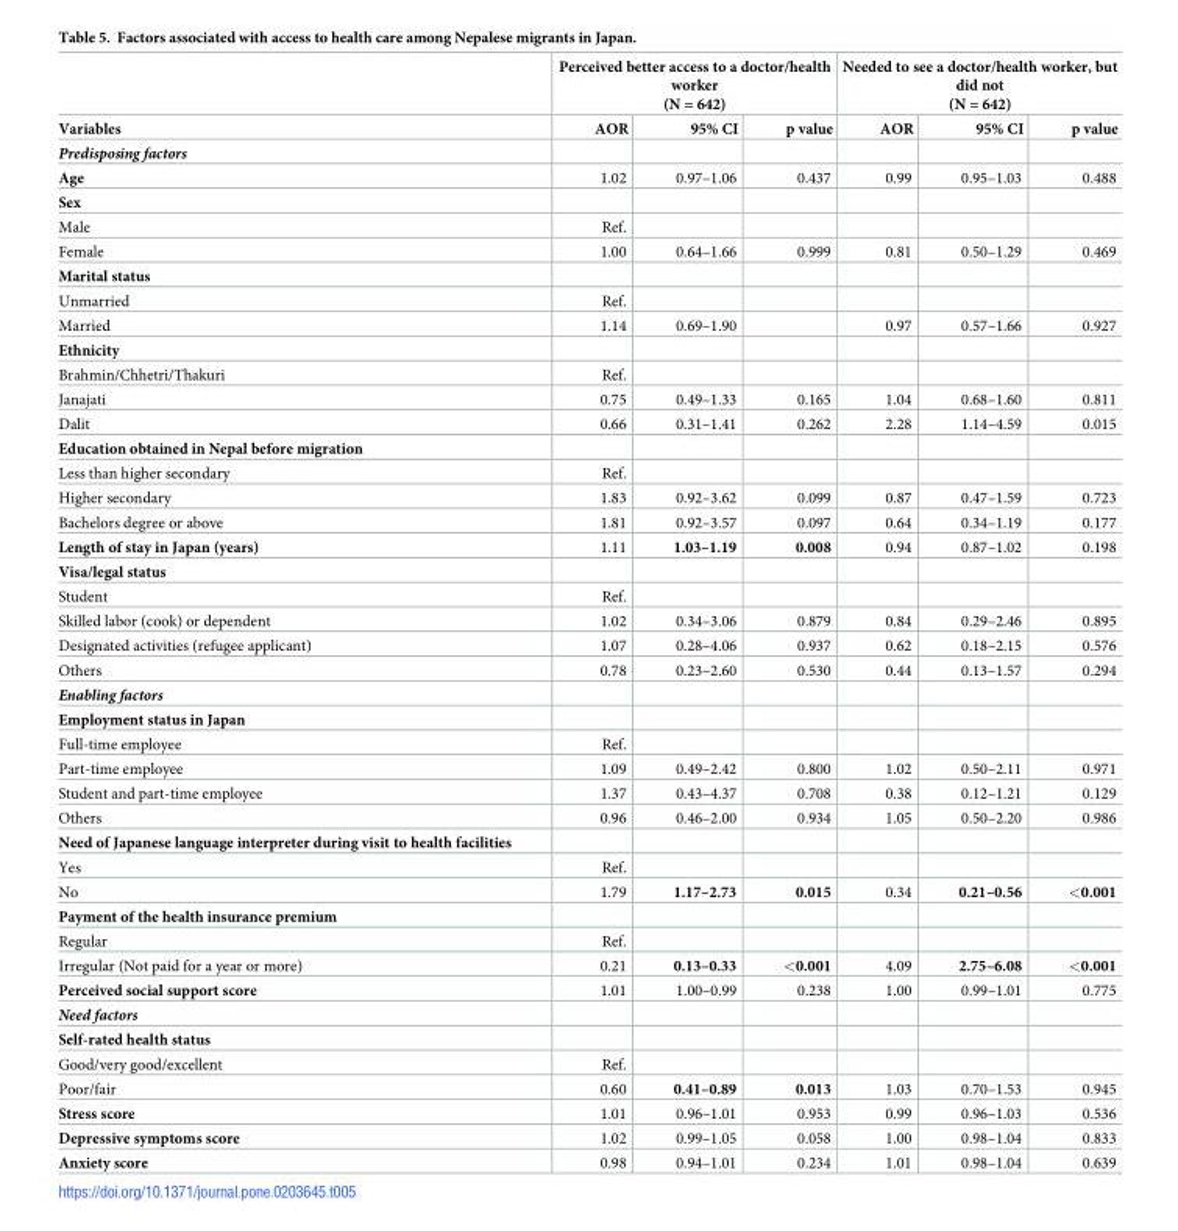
<table><thead><tr><td rowspan="2">Variables</td><td colspan="3">Perceived better access to a doctor/health worker (N = 642)</td><td colspan="3">Needed to see a doctor/health worker, but did not (N = 642)</td></tr><tr><td>AOR</td><td>95% CI</td><td>p value</td><td>AOR</td><td>95% CI</td><td>p value</td></tr></thead><tbody><tr><td colspan="7">Predisposing factors</td></tr><tr><td>Age</td><td>1.02</td><td>0.97–1.06</td><td>0.437</td><td>0.99</td><td>0.95–1.03</td><td>0.488</td></tr><tr><td colspan="7">Sex</td></tr><tr><td>Male</td><td>Ref.</td><td></td><td></td><td></td><td></td><td></td></tr><tr><td>Female</td><td>1.00</td><td>0.64–1.66</td><td>0.999</td><td>0.81</td><td>0.50–1.29</td><td>0.469</td></tr><tr><td colspan="7">Marital status</td></tr><tr><td>Unmarried</td><td>Ref.</td><td></td><td></td><td></td><td></td><td></td></tr><tr><td>Married</td><td>1.14</td><td>0.69–1.90</td><td></td><td>0.97</td><td>0.57–1.66</td><td>0.927</td></tr><tr><td colspan="7">Ethnicity</td></tr><tr><td>Brahmin/Chhetri/Thakuri</td><td>Ref.</td><td></td><td></td><td></td><td></td><td></td></tr><tr><td>Janajati</td><td>0.75</td><td>0.49–1.33</td><td>0.165</td><td>1.04</td><td>0.68–1.60</td><td>0.811</td></tr><tr><td>Dalit</td><td>0.66</td><td>0.31–1.41</td><td>0.262</td><td>2.28</td><td>1.14–4.59</td><td>0.015</td></tr><tr><td colspan="7">Education obtained in Nepal before migration</td></tr><tr><td>Less than higher secondary</td><td>Ref.</td><td></td><td></td><td></td><td></td><td></td></tr><tr><td>Higher secondary</td><td>1.83</td><td>0.92–3.62</td><td>0.099</td><td>0.87</td><td>0.47–1.59</td><td>0.723</td></tr><tr><td>Bachelors degree or above</td><td>1.81</td><td>0.92–3.57</td><td>0.097</td><td>0.64</td><td>0.34–1.19</td><td>0.177</td></tr><tr><td>Length of stay in Japan (years)</td><td>1.11</td><td>1.03–1.19</td><td>0.008</td><td>0.94</td><td>0.87–1.02</td><td>0.198</td></tr><tr><td colspan="7">Visa/legal status</td></tr><tr><td>Student</td><td>Ref.</td><td></td><td></td><td></td><td></td><td></td></tr><tr><td>Skilled labor (cook) or dependent</td><td>1.02</td><td>0.34–3.06</td><td>0.879</td><td>0.84</td><td>0.29–2.46</td><td>0.895</td></tr><tr><td>Designated activities (refugee applicant)</td><td>1.07</td><td>0.28–4.06</td><td>0.937</td><td>0.62</td><td>0.18–2.15</td><td>0.576</td></tr><tr><td>Others</td><td>0.78</td><td>0.23–2.60</td><td>0.530</td><td>0.44</td><td>0.13–1.57</td><td>0.294</td></tr><tr><td colspan="7">Enabling factors</td></tr><tr><td colspan="7">Employment status in Japan</td></tr><tr><td>Full-time employee</td><td>Ref.</td><td></td><td></td><td></td><td></td><td></td></tr><tr><td>Part-time employee</td><td>1.09</td><td>0.49–2.42</td><td>0.800</td><td>1.02</td><td>0.50–2.11</td><td>0.971</td></tr><tr><td>Student and part-time employee</td><td>1.37</td><td>0.43–4.37</td><td>0.708</td><td>0.38</td><td>0.12–1.21</td><td>0.129</td></tr><tr><td>Others</td><td>0.96</td><td>0.46–2.00</td><td>0.934</td><td>1.05</td><td>0.50–2.20</td><td>0.986</td></tr><tr><td colspan="7">Need of Japanese language interpreter during visit to health facilities</td></tr><tr><td>Yes</td><td>Ref.</td><td></td><td></td><td></td><td></td><td></td></tr><tr><td>No</td><td>1.79</td><td>1.17–2.73</td><td>0.015</td><td>0.34</td><td>0.21–0.56</td><td>&lt;0.001</td></tr><tr><td colspan="7">Payment of the health insurance premium</td></tr><tr><td>Regular</td><td>Ref.</td><td></td><td></td><td></td><td></td><td></td></tr><tr><td>Irregular (Not paid for a year or more)</td><td>0.21</td><td>0.13–0.33</td><td>&lt;0.001</td><td>4.09</td><td>2.75–6.08</td><td>&lt;0.001</td></tr><tr><td>Perceived social support score</td><td>1.01</td><td>1.00–0.99</td><td>0.238</td><td>1.00</td><td>0.99–1.01</td><td>0.775</td></tr><tr><td colspan="7">Need factors</td></tr><tr><td colspan="7">Self-rated health status</td></tr><tr><td>Good/very good/excellent</td><td>Ref.</td><td></td><td></td><td></td><td></td><td></td></tr><tr><td>Poor/fair</td><td>0.60</td><td>0.41–0.89</td><td>0.013</td><td>1.03</td><td>0.70–1.53</td><td>0.945</td></tr><tr><td>Stress score</td><td>1.01</td><td>0.96–1.01</td><td>0.953</td><td>0.99</td><td>0.96–1.03</td><td>0.536</td></tr><tr><td>Depressive symptoms score</td><td>1.02</td><td>0.99–1.05</td><td>0.058</td><td>1.00</td><td>0.98–1.04</td><td>0.833</td></tr><tr><td>Anxiety score</td><td>0.98</td><td>0.94–1.01</td><td>0.234</td><td>1.01</td><td>0.98–1.04</td><td>0.639</td></tr></tbody></table>